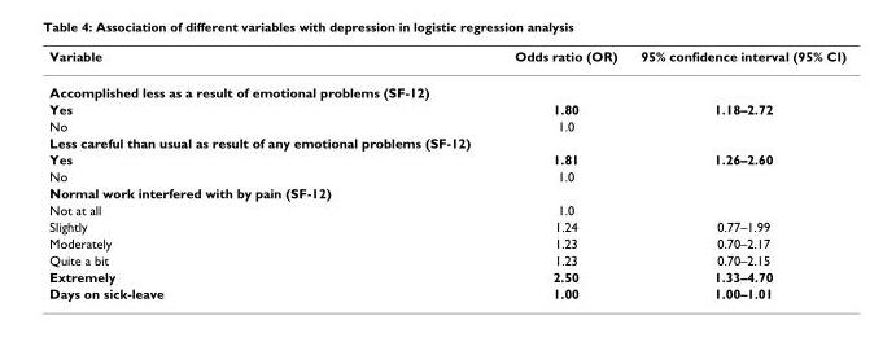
<table><thead><tr><td>Variable</td><td>Odds ratio (OR)</td><td>95% confidence interval (95% CI)</td></tr></thead><tbody><tr><td colspan="3">Accomplished less as a result of emotional problems (SF-12)</td></tr><tr><td>Yes</td><td>1.80</td><td>1.18–2.72</td></tr><tr><td>No</td><td>1.0</td><td></td></tr><tr><td colspan="3">Less careful than usual as result of any emotional problems (SF-12)</td></tr><tr><td>Yes</td><td>1.81</td><td>1.26–2.60</td></tr><tr><td>No</td><td>1.0</td><td></td></tr><tr><td colspan="3">Normal work interfered with by pain (SF-12)</td></tr><tr><td>Not at all</td><td>1.0</td><td></td></tr><tr><td>Slightly</td><td>1.24</td><td>0.77–1.99</td></tr><tr><td>Moderately</td><td>1.23</td><td>0.70–2.17</td></tr><tr><td>Quite a bit</td><td>1.23</td><td>0.70–2.15</td></tr><tr><td>Extremely</td><td>2.50</td><td>1.33–4.70</td></tr><tr><td>Days on sick-leave</td><td>1.00</td><td>1.00–1.01</td></tr></tbody></table>